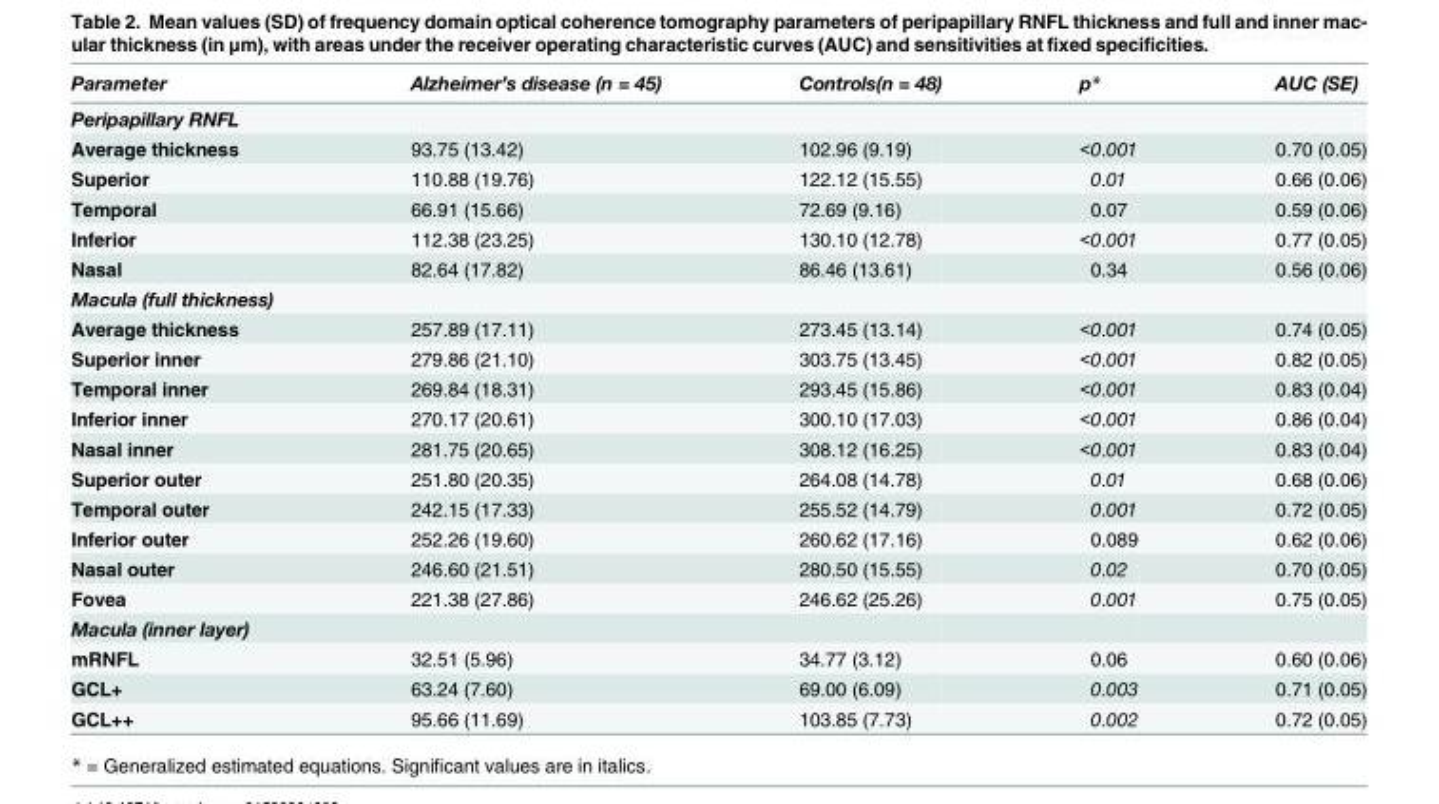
<table><thead><tr><td>Parameter</td><td>Alzheimer’s disease (n = 45)</td><td>Controls(n = 48)</td><td>p*</td><td>AUC (SE)</td></tr></thead><tbody><tr><td colspan="5">Peripapillary RNFL</td></tr><tr><td>Average thickness</td><td>93.75 (13.42)</td><td>102.96 (9.19)</td><td>&lt;0.001</td><td>0.70 (0.05)</td></tr><tr><td>Superior</td><td>110.88 (19.76)</td><td>122.12 (15.55)</td><td>0.01</td><td>0.66 (0.06)</td></tr><tr><td>Temporal</td><td>66.91 (15.66)</td><td>72.69 (9.16)</td><td>0.07</td><td>0.59 (0.06)</td></tr><tr><td>Inferior</td><td>112.38 (23.25)</td><td>130.10 (12.78)</td><td>&lt;0.001</td><td>0.77 (0.05)</td></tr><tr><td>Nasal</td><td>82.64 (17.82)</td><td>86.46 (13.61)</td><td>0.34</td><td>0.56 (0.06)</td></tr><tr><td colspan="5">Macula (full thickness)</td></tr><tr><td>Average thickness</td><td>257.89 (17.11)</td><td>273.45 (13.14)</td><td>&lt;0.001</td><td>0.74 (0.05)</td></tr><tr><td>Superior inner</td><td>279.86 (21.10)</td><td>303.75 (13.45)</td><td>&lt;0.001</td><td>0.82 (0.05)</td></tr><tr><td>Temporal inner</td><td>269.84 (18.31)</td><td>293.45 (15.86)</td><td>&lt;0.001</td><td>0.83 (0.04)</td></tr><tr><td>Inferior inner</td><td>270.17 (20.61)</td><td>300.10 (17.03)</td><td>&lt;0.001</td><td>0.86 (0.04)</td></tr><tr><td>Nasal inner</td><td>281.75 (20.65)</td><td>308.12 (16.25)</td><td>&lt;0.001</td><td>0.83 (0.04)</td></tr><tr><td>Superior outer</td><td>251.80 (20.35)</td><td>264.08 (14.78)</td><td>0.01</td><td>0.68 (0.06)</td></tr><tr><td>Temporal outer</td><td>242.15 (17.33)</td><td>255.52 (14.79)</td><td>0.001</td><td>0.72 (0.05)</td></tr><tr><td>Inferior outer</td><td>252.26 (19.60)</td><td>260.62 (17.16)</td><td>0.089</td><td>0.62 (0.06)</td></tr><tr><td>Nasal outer</td><td>246.60 (21.51)</td><td>280.50 (15.55)</td><td>0.02</td><td>0.70 (0.05)</td></tr><tr><td>Fovea</td><td>221.38 (27.86)</td><td>246.62 (25.26)</td><td>0.001</td><td>0.75 (0.05)</td></tr><tr><td colspan="5">Macula (inner layer)</td></tr><tr><td>mRNFL</td><td>32.51 (5.96)</td><td>34.77 (3.12)</td><td>0.06</td><td>0.60 (0.06)</td></tr><tr><td>GCL+</td><td>63.24 (7.60)</td><td>69.00 (6.09)</td><td>0.003</td><td>0.71 (0.05)</td></tr><tr><td>GCL++</td><td>95.66 (11.69)</td><td>103.85 (7.73)</td><td>0.002</td><td>0.72 (0.05)</td></tr></tbody></table>